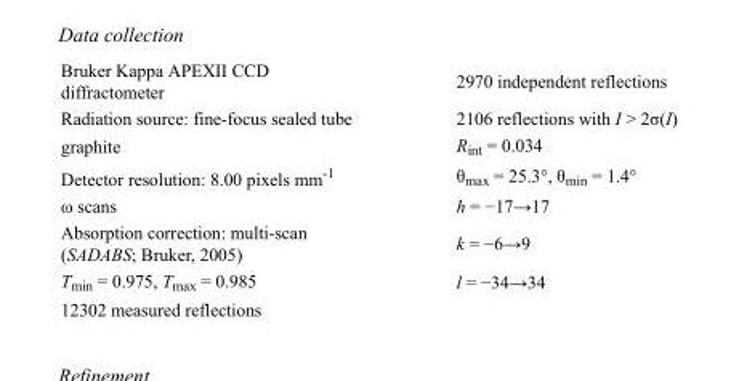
<table><tbody><tr><td>Bruker Kappa APEXII CCD diffractometer</td><td>2970 independent reflections</td></tr><tr><td>Radiation source: fine-focus sealed tube</td><td>2106 reflections with I &gt; 2σ(I)</td></tr><tr><td>graphite</td><td>R<sub>int</sub> = 0.034</td></tr><tr><td>Detector resolution: 8.00 pixels mm<sup>-1</sup></td><td>θ<sub>max</sub> = 25.3°, θ<sub>min</sub> = 1.4°</td></tr><tr><td>ω scans</td><td>h = −17→17</td></tr><tr><td>Absorption correction: multi-scan (SADABS; Bruker, 2005)</td><td>k = −6→9</td></tr><tr><td>T<sub>min</sub> = 0.975, T<sub>max</sub> = 0.985</td><td>l = −34→34</td></tr><tr><td>12302 measured reflections</td><td></td></tr></tbody></table>